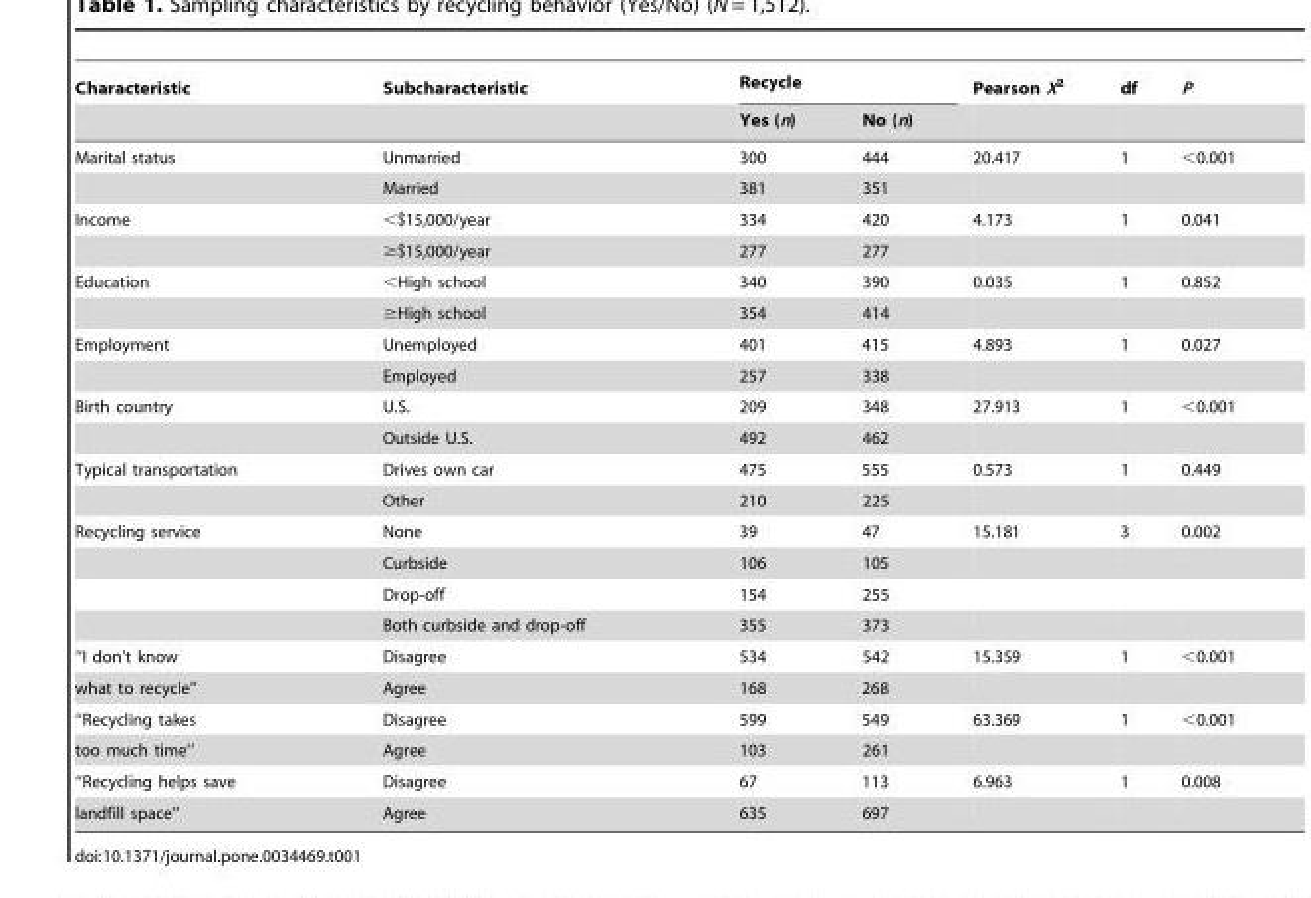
<table><thead><tr><td rowspan="2">Characteristic</td><td rowspan="2">Subcharacteristic</td><td colspan="2">Recycle</td><td rowspan="2">Pearson X<sup>2</sup></td><td rowspan="2">df</td><td rowspan="2">P</td></tr><tr><td>Yes (n)</td><td>No (n)</td></tr></thead><tbody><tr><td rowspan="2">Marital status</td><td>Unmarried</td><td>300</td><td>444</td><td>20.417</td><td>1</td><td>&lt;0.001</td></tr><tr><td>Married</td><td>381</td><td>351</td><td></td><td></td><td></td></tr><tr><td rowspan="2">Income</td><td>&lt;$15,000/year</td><td>334</td><td>420</td><td>4.173</td><td>1</td><td>0.041</td></tr><tr><td>≥$15,000/year</td><td>277</td><td>277</td><td></td><td></td><td></td></tr><tr><td rowspan="2">Education</td><td>&lt;High school</td><td>340</td><td>390</td><td>0.035</td><td>1</td><td>0.852</td></tr><tr><td>≥High school</td><td>354</td><td>414</td><td></td><td></td><td></td></tr><tr><td rowspan="2">Employment</td><td>Unemployed</td><td>401</td><td>415</td><td>4.893</td><td>1</td><td>0.027</td></tr><tr><td>Employed</td><td>257</td><td>338</td><td></td><td></td><td></td></tr><tr><td rowspan="2">Birth country</td><td>U.S.</td><td>209</td><td>348</td><td>27.913</td><td>1</td><td>&lt;0.001</td></tr><tr><td>Outside U.S.</td><td>492</td><td>462</td><td></td><td></td><td></td></tr><tr><td rowspan="2">Typical transportation</td><td>Drives own car</td><td>475</td><td>555</td><td>0.573</td><td>1</td><td>0.449</td></tr><tr><td>Other</td><td>210</td><td>225</td><td></td><td></td><td></td></tr><tr><td rowspan="4">Recycling service</td><td>None</td><td>39</td><td>47</td><td>15.181</td><td>3</td><td>0.002</td></tr><tr><td>Curbside</td><td>106</td><td>105</td><td></td><td></td><td></td></tr><tr><td>Drop-off</td><td>154</td><td>255</td><td></td><td></td><td></td></tr><tr><td>Both curbside and drop-off</td><td>355</td><td>373</td><td></td><td></td><td></td></tr><tr><td>‘‘I don’t know</td><td>Disagree</td><td>534</td><td>542</td><td>15.359</td><td>1</td><td>&lt;0.001</td></tr><tr><td>what to recycle’’</td><td>Agree</td><td>168</td><td>268</td><td></td><td></td><td></td></tr><tr><td>‘‘Recycling takes</td><td>Disagree</td><td>599</td><td>549</td><td>63.369</td><td>1</td><td>&lt;0.001</td></tr><tr><td>too much time’’</td><td>Agree</td><td>103</td><td>261</td><td></td><td></td><td></td></tr><tr><td>‘‘Recycling helps save</td><td>Disagree</td><td>67</td><td>113</td><td>6.963</td><td>1</td><td>0.008</td></tr><tr><td>landfill space’’</td><td>Agree</td><td>635</td><td>697</td><td></td><td></td><td></td></tr></tbody></table>